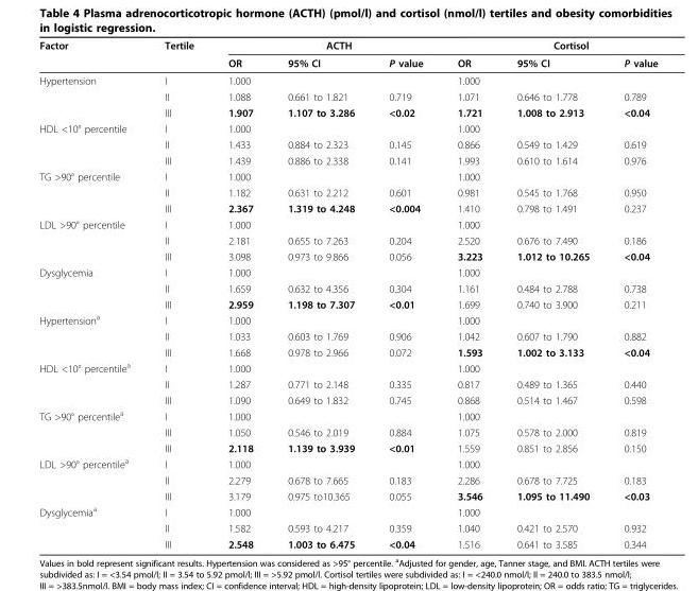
<table><thead><tr><td rowspan="2">Factor</td><td rowspan="2">Tertile</td><td colspan="3">ACTH</td><td colspan="3">Cortisol</td></tr><tr><td>OR</td><td>95% CI</td><td>P value</td><td>OR</td><td>95% CI</td><td>P value</td></tr></thead><tbody><tr><td rowspan="3">Hypertension</td><td>I</td><td>1.000</td><td></td><td></td><td>1.000</td><td></td><td></td></tr><tr><td>II</td><td>1.088</td><td>0.661 to 1.821</td><td>0.719</td><td>1.071</td><td>0.646 to 1.778</td><td>0.789</td></tr><tr><td>III</td><td>1.907</td><td>1.107 to 3.286</td><td>&lt;0.02</td><td>1.721</td><td>1.008 to 2.913</td><td>&lt;0.04</td></tr><tr><td rowspan="3">HDL &lt;10° percentile</td><td>I</td><td>1.000</td><td></td><td></td><td>1.000</td><td></td><td></td></tr><tr><td>II</td><td>1.433</td><td>0.884 to 2.323</td><td>0.145</td><td>0.866</td><td>0.549 to 1.429</td><td>0.619</td></tr><tr><td>III</td><td>1.439</td><td>0.886 to 2.338</td><td>0.141</td><td>1.993</td><td>0.610 to 1.614</td><td>0.976</td></tr><tr><td rowspan="3">TG &gt;90° percentile</td><td>I</td><td>1.000</td><td></td><td></td><td>1.000</td><td></td><td></td></tr><tr><td>II</td><td>1.182</td><td>0.631 to 2.212</td><td>0.601</td><td>0.981</td><td>0.545 to 1.768</td><td>0.950</td></tr><tr><td>III</td><td>2.367</td><td>1.319 to 4.248</td><td>&lt;0.004</td><td>1.410</td><td>0.798 to 1.491</td><td>0.237</td></tr><tr><td rowspan="3">LDL &gt;90° percentile</td><td>I</td><td>1.000</td><td></td><td></td><td>1.000</td><td></td><td></td></tr><tr><td>II</td><td>2.181</td><td>0.655 to 7.263</td><td>0.204</td><td>2.520</td><td>0.676 to 7.490</td><td>0.186</td></tr><tr><td>III</td><td>3.098</td><td>0.973 to 9.866</td><td>0.056</td><td>3.223</td><td>1.012 to 10.265</td><td>&lt;0.04</td></tr><tr><td rowspan="3">Dysglycemia</td><td>I</td><td>1.000</td><td></td><td></td><td>1.000</td><td></td><td></td></tr><tr><td>II</td><td>1.659</td><td>0.632 to 4.356</td><td>0.304</td><td>1.161</td><td>0.484 to 2.788</td><td>0.738</td></tr><tr><td>III</td><td>2.959</td><td>1.198 to 7.307</td><td>&lt;0.01</td><td>1.699</td><td>0.740 to 3.900</td><td>0.211</td></tr><tr><td rowspan="3">Hypertension<sup>a</sup></td><td>I</td><td>1.000</td><td></td><td></td><td>1.000</td><td></td><td></td></tr><tr><td>II</td><td>1.033</td><td>0.603 to 1.769</td><td>0.906</td><td>1.042</td><td>0.607 to 1.790</td><td>0.882</td></tr><tr><td>III</td><td>1.668</td><td>0.978 to 2.966</td><td>0.072</td><td>1.593</td><td>1.002 to 3.133</td><td>&lt;0.04</td></tr><tr><td rowspan="3">HDL &lt;10° percentile<sup>a</sup></td><td>I</td><td>1.000</td><td></td><td></td><td>1.000</td><td></td><td></td></tr><tr><td>II</td><td>1.287</td><td>0.771 to 2.148</td><td>0.335</td><td>0.817</td><td>0.489 to 1.365</td><td>0.440</td></tr><tr><td>III</td><td>1.090</td><td>0.649 to 1.832</td><td>0.745</td><td>0.868</td><td>0.514 to 1.467</td><td>0.598</td></tr><tr><td rowspan="3">TG &gt;90° percentile<sup>a</sup></td><td>I</td><td>1.000</td><td></td><td></td><td>1.000</td><td></td><td></td></tr><tr><td>III</td><td>1.050</td><td>0.546 to 2.019</td><td>0.884</td><td>1.075</td><td>0.578 to 2.000</td><td>0.819</td></tr><tr><td>III</td><td>2.118</td><td>1.139 to 3.939</td><td>&lt;0.01</td><td>1.559</td><td>0.851 to 2.856</td><td>0.150</td></tr><tr><td rowspan="3">LDL &gt;90° percentile<sup>a</sup></td><td>I</td><td>1.000</td><td></td><td></td><td>1.000</td><td></td><td></td></tr><tr><td>II</td><td>2.279</td><td>0.678 to 7.665</td><td>0.183</td><td>2.286</td><td>0.678 to 7.725</td><td>0.183</td></tr><tr><td>III</td><td>3.179</td><td>0.975 to10.365</td><td>0.055</td><td>3.546</td><td>1.095 to 11.490</td><td>&lt;0.03</td></tr><tr><td rowspan="3">Dysglycemia<sup>a</sup></td><td>I</td><td>1.000</td><td></td><td></td><td>1.000</td><td></td><td></td></tr><tr><td>II</td><td>1.582</td><td>0.593 to 4.217</td><td>0.359</td><td>1.040</td><td>0.421 to 2.570</td><td>0.932</td></tr><tr><td>III</td><td>2.548</td><td>1.003 to 6.475</td><td>&lt;0.04</td><td>1.516</td><td>0.641 to 3.585</td><td>0.344</td></tr></tbody></table>